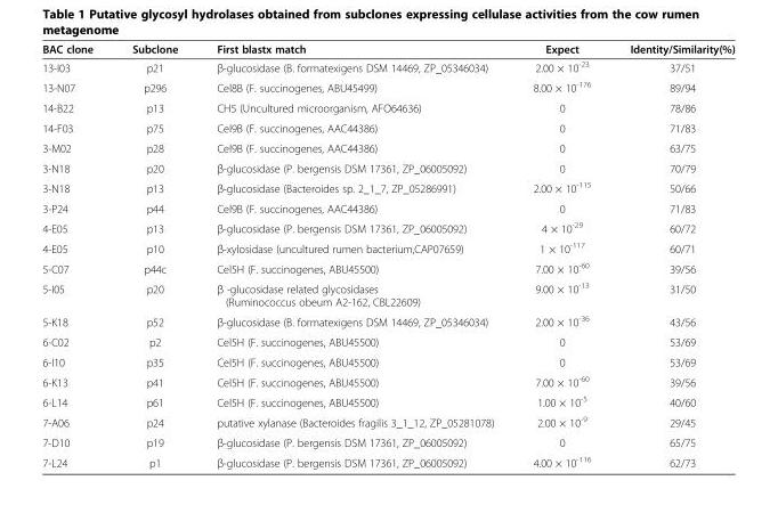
<table><thead><tr><td>BAC clone</td><td>Subclone</td><td>First blastx match</td><td>Expect</td><td>Identity/Similarity(%)</td></tr></thead><tbody><tr><td>13-I03</td><td>p21</td><td>β-glucosidase (B. formatexigens DSM 14469, ZP_05346034)</td><td>2.00 × 10<sup>-23</sup></td><td>37/51</td></tr><tr><td>13-N07</td><td>p296</td><td>Cel8B (F. succinogenes, ABU45499)</td><td>8.00 × 10<sup>-176</sup></td><td>89/94</td></tr><tr><td>14-B22</td><td>p13</td><td>CH5 (Uncultured microorganism, AFO64636)</td><td>0</td><td>78/86</td></tr><tr><td>14-F03</td><td>p75</td><td>Cel9B (F. succinogenes, AAC44386)</td><td>0</td><td>71/83</td></tr><tr><td>3-M02</td><td>p28</td><td>Cel9B (F. succinogenes, AAC44386)</td><td>0</td><td>63/75</td></tr><tr><td>3-N18</td><td>p20</td><td>β-glucosidase (P. bergensis DSM 17361, ZP_06005092)</td><td>0</td><td>70/79</td></tr><tr><td>3-N18</td><td>p13</td><td>β-glucosidase (Bacteroides sp. 2_1_7, ZP_05286991)</td><td>2.00 × 10<sup>-115</sup></td><td>50/66</td></tr><tr><td>3-P24</td><td>p44</td><td>Cel9B (F. succinogenes, AAC44386)</td><td>0</td><td>71/83</td></tr><tr><td>4-E05</td><td>p13</td><td>β-glucosidase (P. bergensis DSM 17361, ZP_06005092)</td><td>4 × 10<sup>-29</sup></td><td>60/72</td></tr><tr><td>4-E05</td><td>p10</td><td>β-xylosidase (uncultured rumen bacterium,CAP07659)</td><td>1 × 10<sup>-117</sup></td><td>60/71</td></tr><tr><td>5-C07</td><td>p44c</td><td>Cel5H (F. succinogenes, ABU45500)</td><td>7.00 × 10<sup>-60</sup></td><td>39/56</td></tr><tr><td>5-I05</td><td>p20</td><td>β -glucosidase related glycosidases (Ruminococcus obeum A2-162, CBL22609)</td><td>9.00 × 10<sup>-13</sup></td><td>31/50</td></tr><tr><td>5-K18</td><td>p52</td><td>β-glucosidase (B. formatexigens DSM 14469, ZP_05346034)</td><td>2.00 × 10<sup>-36</sup></td><td>43/56</td></tr><tr><td>6-C02</td><td>p2</td><td>Cel5H (F. succinogenes, ABU45500)</td><td>0</td><td>53/69</td></tr><tr><td>6-I10</td><td>p35</td><td>Cel5H (F. succinogenes, ABU45500)</td><td>0</td><td>53/69</td></tr><tr><td>6-K13</td><td>p41</td><td>Cel5H (F. succinogenes, ABU45500)</td><td>7.00 × 10<sup>-60</sup></td><td>39/56</td></tr><tr><td>6-L14</td><td>p61</td><td>Cel5H (F. succinogenes, ABU45500)</td><td>1.00 × 10<sup>-5</sup></td><td>40/60</td></tr><tr><td>7-A06</td><td>p24</td><td>putative xylanase (Bacteroides fragilis 3_1_12, ZP_05281078)</td><td>2.00 × 10<sup>-9</sup></td><td>29/45</td></tr><tr><td>7-D10</td><td>p19</td><td>β-glucosidase (P. bergensis DSM 17361, ZP_06005092)</td><td>0</td><td>65/75</td></tr><tr><td>7-L24</td><td>p1</td><td>β-glucosidase (P. bergensis DSM 17361, ZP_06005092)</td><td>4.00 × 10<sup>-116</sup></td><td>62/73</td></tr></tbody></table>